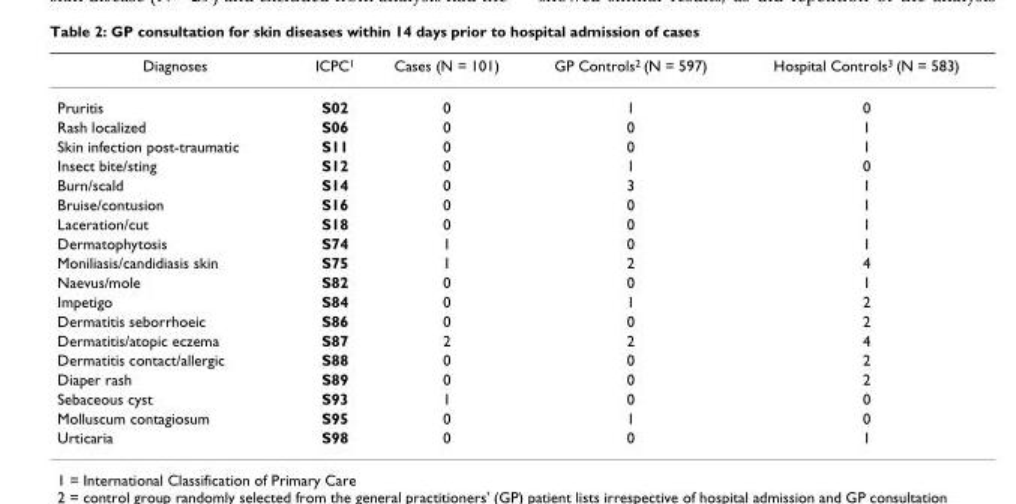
<table><thead><tr><td>Diagnoses</td><td>ICPC<sup>1</sup></td><td>Cases (N = 101)</td><td>GP Controls<sup>2</sup> (N = 597)</td><td>Hospital Controls<sup>3</sup> (N = 583)</td></tr></thead><tbody><tr><td>Pruritis</td><td>S02</td><td>0</td><td>1</td><td>0</td></tr><tr><td>Rash localized</td><td>S06</td><td>0</td><td>0</td><td>1</td></tr><tr><td>Skin infection post-traumatic</td><td>S11</td><td>0</td><td>0</td><td>1</td></tr><tr><td>Insect bite/sting</td><td>S12</td><td>0</td><td>1</td><td>0</td></tr><tr><td>Burn/scald</td><td>S14</td><td>0</td><td>3</td><td>1</td></tr><tr><td>Bruise/contusion</td><td>S16</td><td>0</td><td>0</td><td>1</td></tr><tr><td>Laceration/cut</td><td>S18</td><td>0</td><td>0</td><td>1</td></tr><tr><td>Dermatophytosis</td><td>S74</td><td>1</td><td>0</td><td>1</td></tr><tr><td>Moniliasis/candidiasis skin</td><td>S75</td><td>1</td><td>2</td><td>4</td></tr><tr><td>Naevus/mole</td><td>S82</td><td>0</td><td>0</td><td>1</td></tr><tr><td>Impetigo</td><td>S84</td><td>0</td><td>1</td><td>2</td></tr><tr><td>Dermatitis seborrhoeic</td><td>S86</td><td>0</td><td>0</td><td>2</td></tr><tr><td>Dermatitis/atopic eczema</td><td>S87</td><td>2</td><td>2</td><td>4</td></tr><tr><td>Dermatitis contact/allergic</td><td>S88</td><td>0</td><td>0</td><td>2</td></tr><tr><td>Diaper rash</td><td>S89</td><td>0</td><td>0</td><td>2</td></tr><tr><td>Sebaceous cyst</td><td>S93</td><td>1</td><td>0</td><td>0</td></tr><tr><td>Molluscum contagiosum</td><td>S95</td><td>0</td><td>1</td><td>0</td></tr><tr><td>Urticaria</td><td>S98</td><td>0</td><td>0</td><td>1</td></tr></tbody></table>